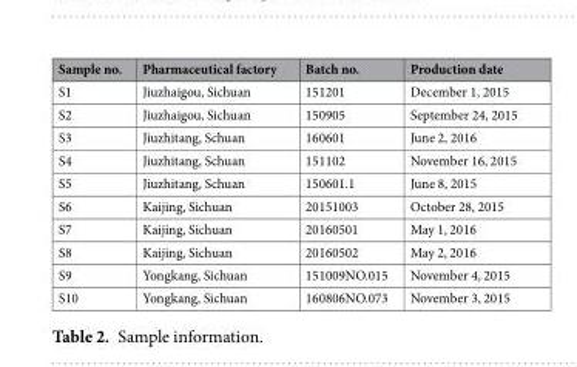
<table><thead><tr><td>Sample no.</td><td>Pharmaceutical factory</td><td>Batch no.</td><td>Production date</td></tr></thead><tbody><tr><td>S1</td><td>Jiuzhaigou, Sichuan</td><td>151201</td><td>December 1, 2015</td></tr><tr><td>S2</td><td>Jiuzhaigou, Sichuan</td><td>150905</td><td>September 24, 2015</td></tr><tr><td>S3</td><td>Jiuzhitang, Schuan</td><td>160601</td><td>June 2, 2016</td></tr><tr><td>S4</td><td>Jiuzhitang, Schuan</td><td>151102</td><td>November 16, 2015</td></tr><tr><td>S5</td><td>Jiuzhitang, Schuan</td><td>150601.1</td><td>June 8, 2015</td></tr><tr><td>S6</td><td>Kaijing, Sichuan</td><td>20151003</td><td>October 28, 2015</td></tr><tr><td>S7</td><td>Kaijing, Sichuan</td><td>20160501</td><td>May 1, 2016</td></tr><tr><td>S8</td><td>Kaijing, Sichuan</td><td>20160502</td><td>May 2, 2016</td></tr><tr><td>S9</td><td>Yongkang, Sichuan</td><td>151009NO.015</td><td>November 4, 2015</td></tr><tr><td>S10</td><td>Yongkang, Sichuan</td><td>160806NO.073</td><td>November 3, 2015</td></tr></tbody></table>